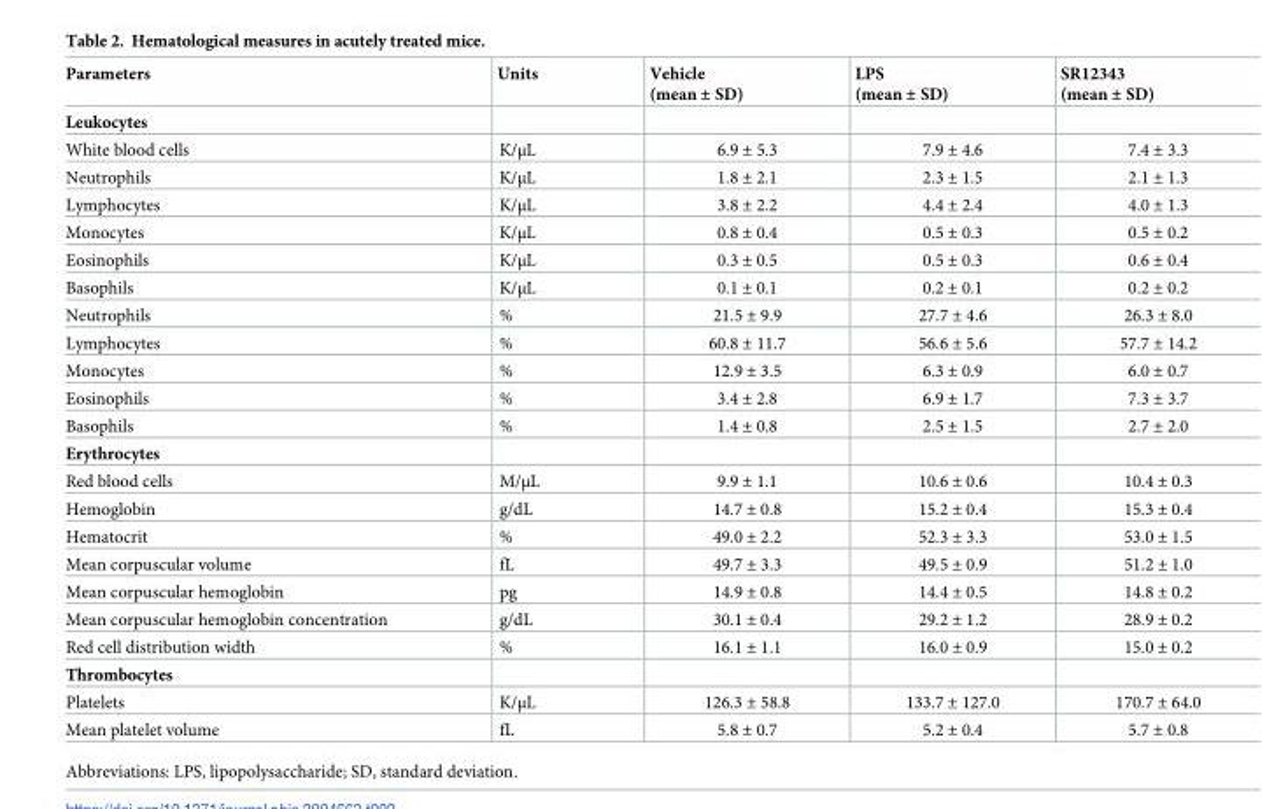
<table><thead><tr><td>Parameters</td><td>Units</td><td>Vehicle (mean ± SD)</td><td>LPS (mean ± SD)</td><td>SR12343 (mean ± SD)</td></tr></thead><tbody><tr><td colspan="5">Leukocytes</td></tr><tr><td>White blood cells</td><td>K/μL</td><td>6.9 ± 5.3</td><td>7.9 ± 4.6</td><td>7.4 ± 3.3</td></tr><tr><td>Neutrophils</td><td>K/μL</td><td>1.8 ± 2.1</td><td>2.3 ± 1.5</td><td>2.1 ± 1.3</td></tr><tr><td>Lymphocytes</td><td>K/μL</td><td>3.8 ± 2.2</td><td>4.4 ± 2.4</td><td>4.0 ± 1.3</td></tr><tr><td>Monocytes</td><td>K/μL</td><td>0.8 ± 0.4</td><td>0.5 ± 0.3</td><td>0.5 ± 0.2</td></tr><tr><td>Eosinophils</td><td>K/μL</td><td>0.3 ± 0.5</td><td>0.5 ± 0.3</td><td>0.6 ± 0.4</td></tr><tr><td>Basophils</td><td>K/μL</td><td>0.1 ± 0.1</td><td>0.2 ± 0.1</td><td>0.2 ± 0.2</td></tr><tr><td>Neutrophils</td><td>%</td><td>21.5 ± 9.9</td><td>27.7 ± 4.6</td><td>26.3 ± 8.0</td></tr><tr><td>Lymphocytes</td><td>%</td><td>60.8 ± 11.7</td><td>56.6 ± 5.6</td><td>57.7 ± 14.2</td></tr><tr><td>Monocytes</td><td>%</td><td>12.9 ± 3.5</td><td>6.3 ± 0.9</td><td>6.0 ± 0.7</td></tr><tr><td>Eosinophils</td><td>%</td><td>3.4 ± 2.8</td><td>6.9 ± 1.7</td><td>7.3 ± 3.7</td></tr><tr><td>Basophils</td><td>%</td><td>1.4 ± 0.8</td><td>2.5 ± 1.5</td><td>2.7 ± 2.0</td></tr><tr><td colspan="5">Erythrocytes</td></tr><tr><td>Red blood cells</td><td>M/μL</td><td>9.9 ± 1.1</td><td>10.6 ± 0.6</td><td>10.4 ± 0.3</td></tr><tr><td>Hemoglobin</td><td>g/dL</td><td>14.7 ± 0.8</td><td>15.2 ± 0.4</td><td>15.3 ± 0.4</td></tr><tr><td>Hematocrit</td><td>%</td><td>49.0 ± 2.2</td><td>52.3 ± 3.3</td><td>53.0 ± 1.5</td></tr><tr><td>Mean corpuscular volume</td><td>fL</td><td>49.7 ± 3.3</td><td>49.5 ± 0.9</td><td>51.2 ± 1.0</td></tr><tr><td>Mean corpuscular hemoglobin</td><td>pg</td><td>14.9 ± 0.8</td><td>14.4 ± 0.5</td><td>14.8 ± 0.2</td></tr><tr><td>Mean corpuscular hemoglobin concentration</td><td>g/dL</td><td>30.1 ± 0.4</td><td>29.2 ± 1.2</td><td>28.9 ± 0.2</td></tr><tr><td>Red cell distribution width</td><td>%</td><td>16.1 ± 1.1</td><td>16.0 ± 0.9</td><td>15.0 ± 0.2</td></tr><tr><td colspan="5">Thrombocytes</td></tr><tr><td>Platelets</td><td>K/μL</td><td>126.3 ± 58.8</td><td>133.7 ± 127.0</td><td>170.7 ± 64.0</td></tr><tr><td>Mean platelet volume</td><td>fL</td><td>5.8 ± 0.7</td><td>5.2 ± 0.4</td><td>5.7 ± 0.8</td></tr></tbody></table>